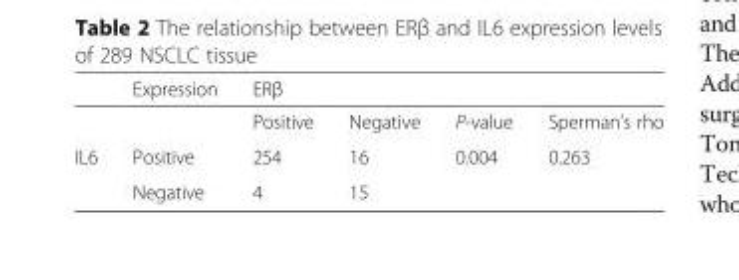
<table><thead><tr><td rowspan="2"></td><td rowspan="2">Expression</td><td colspan="2">ERβ</td><td rowspan="2">P-value</td><td rowspan="2">Sperman’s rho</td></tr><tr><td>Positive</td><td>Negative</td></tr></thead><tbody><tr><td rowspan="2">IL6</td><td>Positive</td><td>254</td><td>16</td><td>0.004</td><td>0.263</td></tr><tr><td>Negative</td><td>4</td><td>15</td><td></td><td></td></tr></tbody></table>